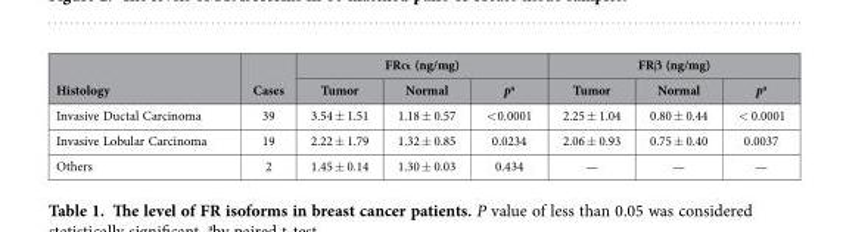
<table><thead><tr><td rowspan="2">Histology</td><td rowspan="2">Cases</td><td colspan="3">FRα (ng/mg)</td><td colspan="3">FRβ (ng/mg)</td></tr><tr><td>Tumor</td><td>Normal</td><td>p<sup>a</sup></td><td>Tumor</td><td>Normal</td><td>p<sup>a</sup></td></tr></thead><tbody><tr><td>Invasive Ductal Carcinoma</td><td>39</td><td>3.54 ± 1.51</td><td>1.18 ± 0.57</td><td>&lt; 0.0001</td><td>2.25 ± 1.04</td><td>0.80 ± 0.44</td><td>&lt; 0.0001</td></tr><tr><td>Invasive Lobular Carcinoma</td><td>19</td><td>2.22 ± 1.79</td><td>1.32 ± 0.85</td><td>0.0234</td><td>2.06 ± 0.93</td><td>0.75 ± 0.40</td><td>0.0037</td></tr><tr><td>Others</td><td>2</td><td>1.45 ± 0.14</td><td>1.30 ± 0.03</td><td>0.434</td><td>—</td><td>—</td><td>—</td></tr></tbody></table>